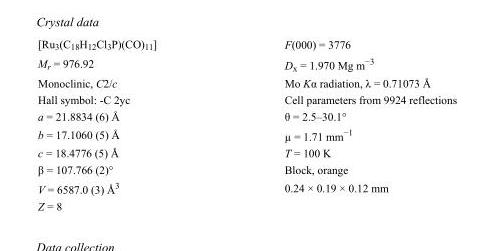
<table><tbody><tr><td>[Ru<sub>3</sub>(C<sub>18</sub>H<sub>12</sub>Cl<sub>3</sub>P)(CO)<sub>11</sub>]</td><td>F(000) = 3776</td></tr><tr><td>M<sub>r</sub> = 976.92</td><td>D<sub>x</sub> = 1.970 Mg m<sup>−3</sup></td></tr><tr><td>Monoclinic, C2/c</td><td>Mo Kα radiation, λ = 0.71073 Å</td></tr><tr><td>Hall symbol: -C 2yc</td><td>Cell parameters from 9924 reflections</td></tr><tr><td>a = 21.8834 (6) Å</td><td>θ = 2.5–30.1°</td></tr><tr><td>b = 17.1060 (5) Å</td><td>µ = 1.71 mm<sup>−1</sup></td></tr><tr><td>c = 18.4776 (5) Å</td><td>T = 100 K</td></tr><tr><td>β = 107.766 (2)°</td><td>Block, orange</td></tr><tr><td>V = 6587.0 (3) Å<sup>3</sup></td><td>0.24 × 0.19 × 0.12 mm</td></tr><tr><td>Z = 8</td><td></td></tr></tbody></table>